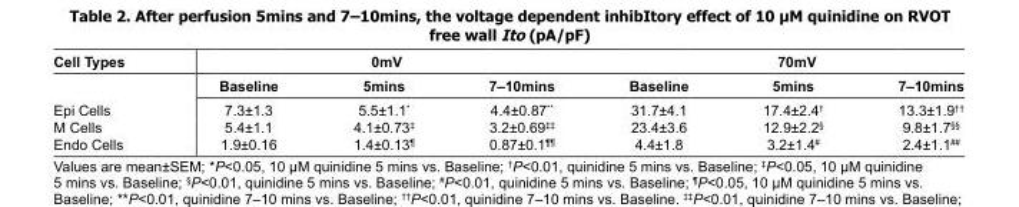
<table><thead><tr><td rowspan="2">Cell Types</td><td colspan="3">0mV</td><td colspan="3">70mV</td></tr><tr><td>Baseline</td><td>5mins</td><td>7–10mins</td><td>Baseline</td><td>5mins</td><td>7–10mins</td></tr></thead><tbody><tr><td>Epi Cells</td><td>7.3±1.3</td><td>5.5±1.1*</td><td>4.4±0.87**</td><td>31.7±4.1</td><td>17.4±2.4†</td><td>13.3±1.9††</td></tr><tr><td>M Cells</td><td>5.4±1.1</td><td>4.1±0.73‡</td><td>3.2±0.69‡‡</td><td>23.4±3.6</td><td>12.9±2.2§</td><td>9.8±1.7§§</td></tr><tr><td>Endo Cells</td><td>1.9±0.16</td><td>1.4±0.13¶</td><td>0.87±0.1¶¶</td><td>4.4±1.8</td><td>3.2±1.4#</td><td>2.4±1.1##</td></tr></tbody></table>